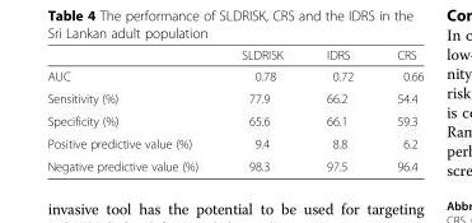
<table><thead><tr><td></td><td>SLDRISK</td><td>IDRS</td><td>CRS</td></tr></thead><tbody><tr><td>AUC</td><td>0.78</td><td>0.72</td><td>0.66</td></tr><tr><td>Sensitivity (%)</td><td>77.9</td><td>66.2</td><td>54.4</td></tr><tr><td>Specificity (%)</td><td>65.6</td><td>66.1</td><td>59.3</td></tr><tr><td>Positive predictive value (%)</td><td>9.4</td><td>8.8</td><td>6.2</td></tr><tr><td>Negative predictive value (%)</td><td>98.3</td><td>97.5</td><td>96.4</td></tr></tbody></table>